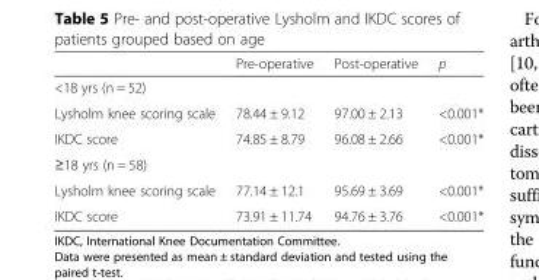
<table><thead><tr><td></td><td>Pre-operative</td><td>Post-operative</td><td>p</td></tr></thead><tbody><tr><td colspan="4">&lt;18 yrs (n = 52)</td></tr><tr><td>Lysholm knee scoring scale</td><td>78.44 ± 9.12</td><td>97.00 ± 2.13</td><td>&lt;0.001*</td></tr><tr><td>IKDC score</td><td>74.85 ± 8.79</td><td>96.08 ± 2.66</td><td>&lt;0.001*</td></tr><tr><td colspan="4">≥18 yrs (n = 58)</td></tr><tr><td>Lysholm knee scoring scale</td><td>77.14 ± 12.1</td><td>95.69 ± 3.69</td><td>&lt;0.001*</td></tr><tr><td>IKDC score</td><td>73.91 ± 11.74</td><td>94.76 ± 3.76</td><td>&lt;0.001*</td></tr></tbody></table>